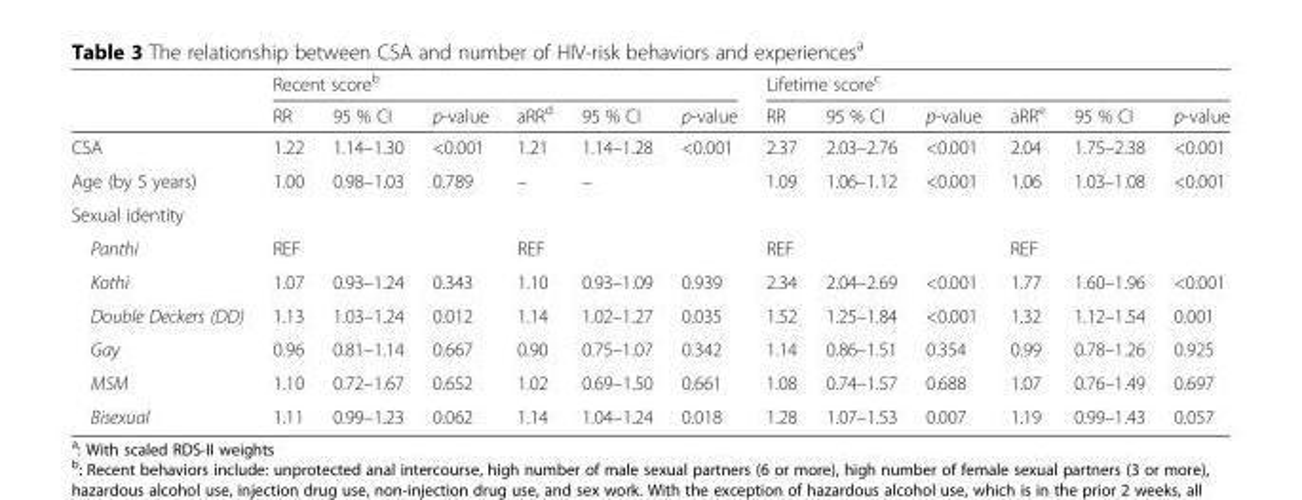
<table><thead><tr><td rowspan="2"></td><td colspan="6">Recent score<sup>b</sup></td><td colspan="6">Lifetime score<sup>c</sup></td></tr><tr><td>RR</td><td>95 % CI</td><td>p-value</td><td>aRR<sup>d</sup></td><td>95 % CI</td><td>p-value</td><td>RR</td><td>95 % CI</td><td>p-value</td><td>aRR<sup>e</sup></td><td>95 % CI</td><td>p-value</td></tr></thead><tbody><tr><td>CSA</td><td>1.22</td><td>1.14–1.30</td><td>&lt;0.001</td><td>1.21</td><td>1.14–1.28</td><td>&lt;0.001</td><td>2.37</td><td>2.03–2.76</td><td>&lt;0.001</td><td>2.04</td><td>1.75–2.38</td><td>&lt;0.001</td></tr><tr><td>Age (by 5 years)</td><td>1.00</td><td>0.98–1.03</td><td>0.789</td><td>–</td><td>–</td><td></td><td>1.09</td><td>1.06–1.12</td><td>&lt;0.001</td><td>1.06</td><td>1.03–1.08</td><td>&lt;0.001</td></tr><tr><td colspan="13">Sexual identity</td></tr><tr><td>Panthi</td><td colspan="2">REF</td><td></td><td colspan="2">REF</td><td></td><td colspan="2">REF</td><td></td><td colspan="2">REF</td><td></td></tr><tr><td>Kothi</td><td>1.07</td><td>0.93–1.24</td><td>0.343</td><td>1.10</td><td>0.93–1.09</td><td>0.939</td><td>2.34</td><td>2.04–2.69</td><td>&lt;0.001</td><td>1.77</td><td>1.60–1.96</td><td>&lt;0.001</td></tr><tr><td>Double Deckers (DD)</td><td>1.13</td><td>1.03–1.24</td><td>0.012</td><td>1.14</td><td>1.02–1.27</td><td>0.035</td><td>1.52</td><td>1.25–1.84</td><td>&lt;0.001</td><td>1.32</td><td>1.12–1.54</td><td>0.001</td></tr><tr><td>Gay</td><td>0.96</td><td>0.81–1.14</td><td>0.667</td><td>0.90</td><td>0.75–1.07</td><td>0.342</td><td>1.14</td><td>0.86–1.51</td><td>0.354</td><td>0.99</td><td>0.78–1.26</td><td>0.925</td></tr><tr><td>MSM</td><td>1.10</td><td>0.72–1.67</td><td>0.652</td><td>1.02</td><td>0.69–1.50</td><td>0.661</td><td>1.08</td><td>0.74–1.57</td><td>0.688</td><td>1.07</td><td>0.76–1.49</td><td>0.697</td></tr><tr><td>Bisexual</td><td>1.11</td><td>0.99–1.23</td><td>0.062</td><td>1.14</td><td>1.04–1.24</td><td>0.018</td><td>1.28</td><td>1.07–1.53</td><td>0.007</td><td>1.19</td><td>0.99–1.43</td><td>0.057</td></tr></tbody></table>